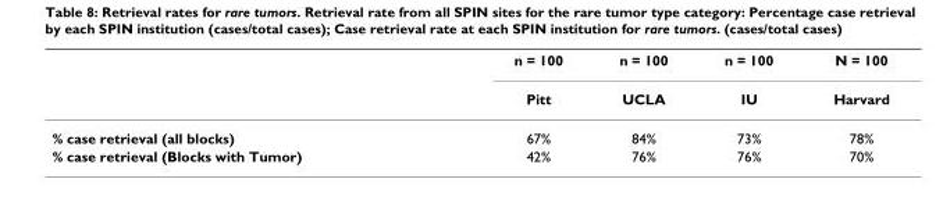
<table><thead><tr><td rowspan="2"></td><td rowspan="2">n = 100 Pitt</td><td rowspan="2">n = 100 UCLA</td><td rowspan="2">n = 100 IU</td><td rowspan="2">N = 100 Harvard</td></tr><tr></tr></thead><tbody><tr><td>% case retrieval (all blocks)</td><td>67%</td><td>84%</td><td>73%</td><td>78%</td></tr><tr><td>% case retrieval (Blocks with Tumor)</td><td>42%</td><td>76%</td><td>76%</td><td>70%</td></tr></tbody></table>